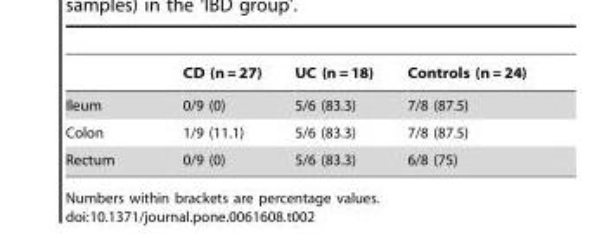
<table><thead><tr><td></td><td>CD (n = 27)</td><td>UC (n = 18)</td><td>Controls (n = 24)</td></tr></thead><tbody><tr><td>Ileum</td><td>0/9 (0)</td><td>5/6 (83.3)</td><td>7/8 (87.5)</td></tr><tr><td>Colon</td><td>1/9 (11.1)</td><td>5/6 (83.3)</td><td>7/8 (87.5)</td></tr><tr><td>Rectum</td><td>0/9 (0)</td><td>5/6 (83.3)</td><td>6/8 (75)</td></tr></tbody></table>